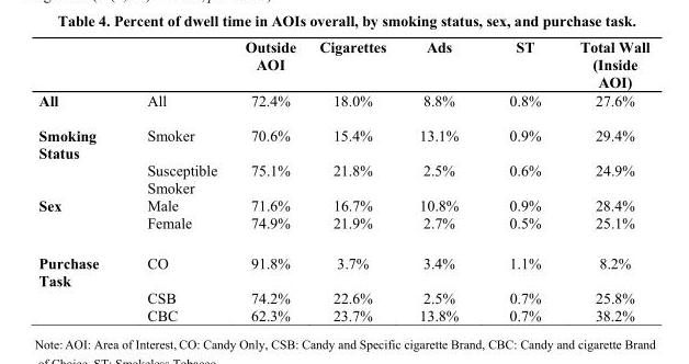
<table><thead><tr><td></td><td></td><td>Outside AOI</td><td>Cigarettes</td><td>Ads</td><td>ST</td><td>Total Wall (Inside AOI)</td></tr></thead><tbody><tr><td>All</td><td>All</td><td>72.4%</td><td>18.0%</td><td>8.8%</td><td>0.8%</td><td>27.6%</td></tr><tr><td rowspan="2">Smoking Status</td><td>Smoker</td><td>70.6%</td><td>15.4%</td><td>13.1%</td><td>0.9%</td><td>29.4%</td></tr><tr><td>Susceptible Smoker</td><td>75.1%</td><td>21.8%</td><td>2.5%</td><td>0.6%</td><td>24.9%</td></tr><tr><td rowspan="2">Sex</td><td>Male</td><td>71.6%</td><td>16.7%</td><td>10.8%</td><td>0.9%</td><td>28.4%</td></tr><tr><td>Female</td><td>74.9%</td><td>21.9%</td><td>2.7%</td><td>0.5%</td><td>25.1%</td></tr><tr><td rowspan="3">Purchase Task</td><td>CO</td><td>91.8%</td><td>3.7%</td><td>3.4%</td><td>1.1%</td><td>8.2%</td></tr><tr><td>CSB</td><td>74.2%</td><td>22.6%</td><td>2.5%</td><td>0.7%</td><td>25.8%</td></tr><tr><td>CBC</td><td>62.3%</td><td>23.7%</td><td>13.8%</td><td>0.7%</td><td>38.2%</td></tr></tbody></table>